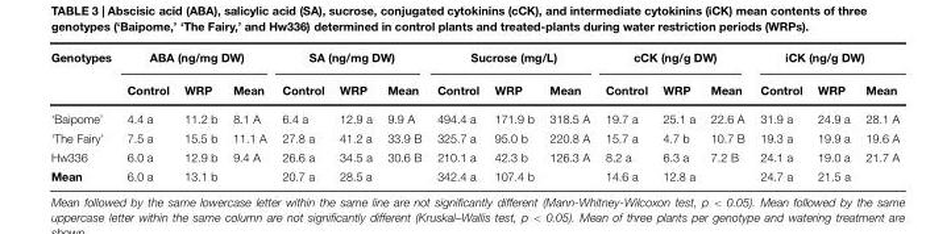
<table><thead><tr><td rowspan="2">Genotypes</td><td colspan="3">ABA (ng/mg DW)</td><td colspan="3">SA (ng/mg DW)</td><td colspan="3">Sucrose (mg/L)</td><td colspan="3">cCK (ng/g DW)</td><td colspan="3">iCK (ng/g DW)</td></tr><tr><td>Control</td><td>WRP</td><td>Mean</td><td>Control</td><td>WRP</td><td>Mean</td><td>Control</td><td>WRP</td><td>Mean</td><td>Control</td><td>WRP</td><td>Mean</td><td>Control</td><td>WRP</td><td>Mean</td></tr></thead><tbody><tr><td>‘Baipome’</td><td>4.4 a</td><td>11.2 b</td><td>8.1 A</td><td>6.4 a</td><td>12.9 a</td><td>9.9 A</td><td>494.4 a</td><td>171.9 b</td><td>318.5 A</td><td>19.7 a</td><td>25.1 a</td><td>22.6 A</td><td>31.9 a</td><td>24.9 a</td><td>28.1 A</td></tr><tr><td>‘The Fairy’</td><td>7.5 a</td><td>15.5 b</td><td>11.1 A</td><td>27.8 a</td><td>41.2 a</td><td>33.9 B</td><td>325.7 a</td><td>95.0 b</td><td>220.8 A</td><td>15.7 a</td><td>4.7 b</td><td>10.7 B</td><td>19.3 a</td><td>19.9 a</td><td>19.6 A</td></tr><tr><td>Hw336</td><td>6.0 a</td><td>12.9 b</td><td>9.4 A</td><td>26.6 a</td><td>34.5 a</td><td>30.6 B</td><td>210.1 a</td><td>42.3 b</td><td>126.3 A</td><td>8.2 a</td><td>6.3 a</td><td>7.2 B</td><td>24.1 a</td><td>19.0 a</td><td>21.7 A</td></tr><tr><td>Mean</td><td>6.0 a</td><td>13.1 b</td><td></td><td>20.7 a</td><td>28.5 a</td><td></td><td>342.4 a</td><td>107.4 b</td><td></td><td>14.6 a</td><td>12.8 a</td><td></td><td>24.7 a</td><td>21.5 a</td><td></td></tr></tbody></table>